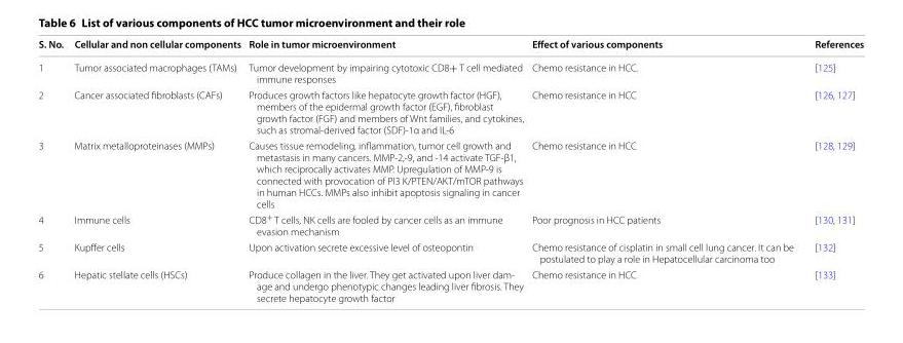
<table><thead><tr><td>S. No.</td><td>Cellular and non cellular components</td><td>Role in tumor microenvironment</td><td>Effect of various components</td><td>References</td></tr></thead><tbody><tr><td>1</td><td>Tumor associated macrophages (TAMs)</td><td>Tumor development by impairing cytotoxic CD8+ T cell mediated immune responses</td><td>Chemo resistance in HCC.</td><td>[125]</td></tr><tr><td>2</td><td>Cancer associated fibroblasts (CAFs)</td><td>Produces growth factors like hepatocyte growth factor (HGF), members of the epidermal growth factor (EGF), fibroblast growth factor (FGF) and members of Wnt families, and cytokines, such as stromal‑derived factor (SDF)‑1α and IL‑6</td><td>Chemo resistance in HCC</td><td>[126, 127]</td></tr><tr><td>3</td><td>Matrix metalloproteinases (MMPs)</td><td>Causes tissue remodeling, inflammation, tumor cell growth and metastasis in many cancers. MMP‑2,‑9, and ‑14 activate TGF‑β1, which reciprocally activates MMP. Upregulation of MMP‑9 is connected with provocation of PI3 K/PTEN/AKT/mTOR pathways in human HCCs. MMPs also inhibit apoptosis signaling in cancer cells</td><td>Chemo resistance in HCC</td><td>[128, 129]</td></tr><tr><td>4</td><td>Immune cells</td><td>CD8<sup>+</sup> T cells, NK cells are fooled by cancer cells as an immune evasion mechanism</td><td>Poor prognosis in HCC patients</td><td>[130, 131]</td></tr><tr><td>5</td><td>Kupffer cells</td><td>Upon activation secrete excessive level of osteopontin</td><td>Chemo resistance of cisplatin in small cell lung cancer. It can be postulated to play a role in Hepatocellular carcinoma too</td><td>[132]</td></tr><tr><td>6</td><td>Hepatic stellate cells (HSCs)</td><td>Produce collagen in the liver. They get activated upon liver dam‑ age and undergo phenotypic changes leading liver fibrosis. They secrete hepatocyte growth factor</td><td>Chemo resistance in HCC</td><td>[133]</td></tr></tbody></table>